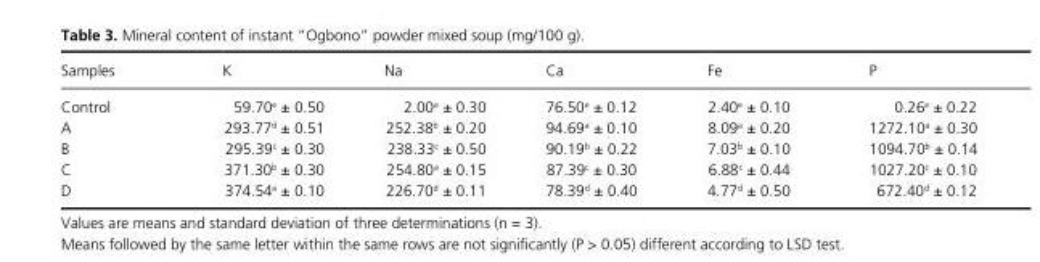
<table><thead><tr><td>Samples</td><td>K</td><td>Na</td><td>Ca</td><td>Fe</td><td>P</td></tr></thead><tbody><tr><td>Control</td><td>59.70 <sup>e</sup> ± 0.50</td><td>2.00 <sup>e</sup> ± 0.30</td><td>76.50 <sup>e</sup> ± 0.12</td><td>2.40 <sup>e</sup> ± 0.10</td><td>0.26 <sup>e</sup> ± 0.22</td></tr><tr><td>A</td><td>293.77 <sup>d</sup> ± 0.51</td><td>252.38 <sup>b</sup> ± 0.20</td><td>94.69 <sup>a</sup> ± 0.10</td><td>8.09 <sup>a</sup> ± 0.20</td><td>1272.10 <sup>a</sup> ± 0.30</td></tr><tr><td>B</td><td>295.39 <sup>c</sup> ± 0.30</td><td>238.33 <sup>c</sup> ± 0.50</td><td>90.19 <sup>b</sup> ± 0.22</td><td>7.03 <sup>b</sup> ± 0.10</td><td>1094.70 <sup>b</sup> ± 0.14</td></tr><tr><td>C</td><td>371.30 <sup>b</sup> ± 0.30</td><td>254.80 <sup>a</sup> ± 0.15</td><td>87.39 <sup>c</sup> ± 0.30</td><td>6.88 <sup>c</sup> ± 0.44</td><td>1027.20 <sup>c</sup> ± 0.10</td></tr><tr><td>D</td><td>374.54 <sup>a</sup> ± 0.10</td><td>226.70 <sup>d</sup> ± 0.11</td><td>78.39 <sup>d</sup> ± 0.40</td><td>4.77 <sup>d</sup> ± 0.50</td><td>672.40 <sup>d</sup> ± 0.12</td></tr></tbody></table>